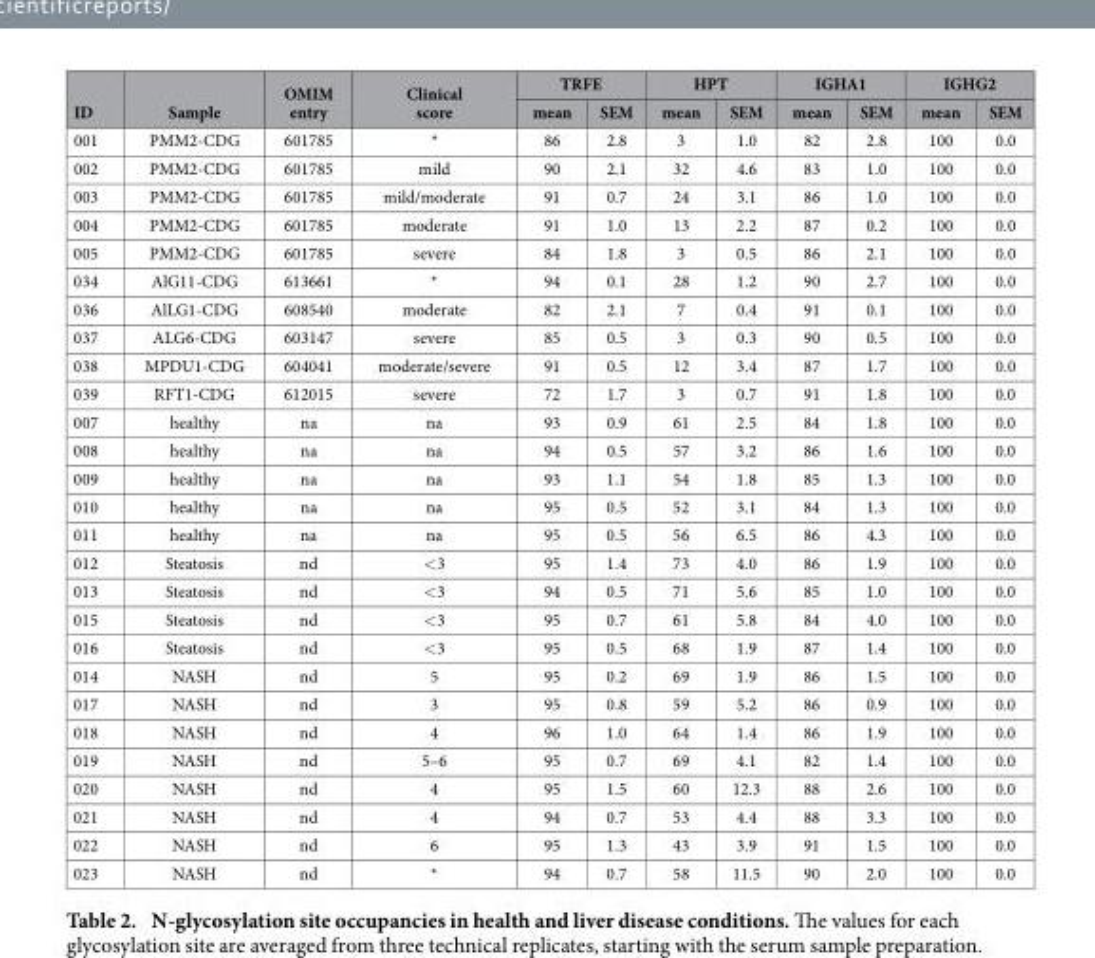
<table><thead><tr><td rowspan="2">ID</td><td rowspan="2">Sample</td><td rowspan="2">OMIM entry</td><td rowspan="2">Clinical score</td><td colspan="2">TRFE</td><td colspan="2">HPT</td><td colspan="2">IGHA1</td><td colspan="2">IGHG2</td></tr><tr><td>mean</td><td>SEM</td><td>mean</td><td>SEM</td><td>mean</td><td>SEM</td><td>mean</td><td>SEM</td></tr></thead><tbody><tr><td>001</td><td>PMM2-CDG</td><td>601785</td><td>*</td><td>86</td><td>2.8</td><td>3</td><td>1.0</td><td>82</td><td>2.8</td><td>100</td><td>0.0</td></tr><tr><td>002</td><td>PMM2-CDG</td><td>601785</td><td>mild</td><td>90</td><td>2.1</td><td>32</td><td>4.6</td><td>83</td><td>1.0</td><td>100</td><td>0.0</td></tr><tr><td>003</td><td>PMM2-CDG</td><td>601785</td><td>mild/moderate</td><td>91</td><td>0.7</td><td>24</td><td>3.1</td><td>86</td><td>1.0</td><td>100</td><td>0.0</td></tr><tr><td>004</td><td>PMM2-CDG</td><td>601785</td><td>moderate</td><td>91</td><td>1.0</td><td>13</td><td>2.2</td><td>87</td><td>0.2</td><td>100</td><td>0.0</td></tr><tr><td>005</td><td>PMM2-CDG</td><td>601785</td><td>severe</td><td>84</td><td>1.8</td><td>3</td><td>0.5</td><td>86</td><td>2.1</td><td>100</td><td>0.0</td></tr><tr><td>034</td><td>AlG11-CDG</td><td>613661</td><td>*</td><td>94</td><td>0.1</td><td>28</td><td>1.2</td><td>90</td><td>2.7</td><td>100</td><td>0.0</td></tr><tr><td>036</td><td>AlLG1-CDG</td><td>608540</td><td>moderate</td><td>82</td><td>2.1</td><td>7</td><td>0.4</td><td>91</td><td>0.1</td><td>100</td><td>0.0</td></tr><tr><td>037</td><td>ALG6-CDG</td><td>603147</td><td>severe</td><td>85</td><td>0.5</td><td>3</td><td>0.3</td><td>90</td><td>0.5</td><td>100</td><td>0.0</td></tr><tr><td>038</td><td>MPDU1-CDG</td><td>604041</td><td>moderate/severe</td><td>91</td><td>0.5</td><td>12</td><td>3.4</td><td>87</td><td>1.7</td><td>100</td><td>0.0</td></tr><tr><td>039</td><td>RFT1-CDG</td><td>612015</td><td>severe</td><td>72</td><td>1.7</td><td>3</td><td>0.7</td><td>91</td><td>1.8</td><td>100</td><td>0.0</td></tr><tr><td>007</td><td>healthy</td><td>na</td><td>na</td><td>93</td><td>0.9</td><td>61</td><td>2.5</td><td>84</td><td>1.8</td><td>100</td><td>0.0</td></tr><tr><td>008</td><td>healthy</td><td>na</td><td>na</td><td>94</td><td>0.5</td><td>57</td><td>3.2</td><td>86</td><td>1.6</td><td>100</td><td>0.0</td></tr><tr><td>009</td><td>healthy</td><td>na</td><td>na</td><td>93</td><td>1.1</td><td>54</td><td>1.8</td><td>85</td><td>1.3</td><td>100</td><td>0.0</td></tr><tr><td>010</td><td>healthy</td><td>na</td><td>na</td><td>95</td><td>0.5</td><td>52</td><td>3.1</td><td>84</td><td>1.3</td><td>100</td><td>0.0</td></tr><tr><td>011</td><td>healthy</td><td>na</td><td>na</td><td>95</td><td>0.5</td><td>56</td><td>6.5</td><td>86</td><td>4.3</td><td>100</td><td>0.0</td></tr><tr><td>012</td><td>Steatosis</td><td>nd</td><td>&lt; 3</td><td>95</td><td>1.4</td><td>73</td><td>4.0</td><td>86</td><td>1.9</td><td>100</td><td>0.0</td></tr><tr><td>013</td><td>Steatosis</td><td>nd</td><td>&lt; 3</td><td>94</td><td>0.5</td><td>71</td><td>5.6</td><td>85</td><td>1.0</td><td>100</td><td>0.0</td></tr><tr><td>015</td><td>Steatosis</td><td>nd</td><td>&lt; 3</td><td>95</td><td>0.7</td><td>61</td><td>5.8</td><td>84</td><td>4.0</td><td>100</td><td>0.0</td></tr><tr><td>016</td><td>Steatosis</td><td>nd</td><td>&lt; 3</td><td>95</td><td>0.5</td><td>68</td><td>1.9</td><td>87</td><td>1.4</td><td>100</td><td>0.0</td></tr><tr><td>014</td><td>NASH</td><td>nd</td><td>5</td><td>95</td><td>0.2</td><td>69</td><td>1.9</td><td>86</td><td>1.5</td><td>100</td><td>0.0</td></tr><tr><td>017</td><td>NASH</td><td>nd</td><td>3</td><td>95</td><td>0.8</td><td>59</td><td>5.2</td><td>86</td><td>0.9</td><td>100</td><td>0.0</td></tr><tr><td>018</td><td>NASH</td><td>nd</td><td>4</td><td>96</td><td>1.0</td><td>64</td><td>1.4</td><td>86</td><td>1.9</td><td>100</td><td>0.0</td></tr><tr><td>019</td><td>NASH</td><td>nd</td><td>5–6</td><td>95</td><td>0.7</td><td>69</td><td>4.1</td><td>82</td><td>1.4</td><td>100</td><td>0.0</td></tr><tr><td>020</td><td>NASH</td><td>nd</td><td>4</td><td>95</td><td>1.5</td><td>60</td><td>12.3</td><td>88</td><td>2.6</td><td>100</td><td>0.0</td></tr><tr><td>021</td><td>NASH</td><td>nd</td><td>4</td><td>94</td><td>0.7</td><td>53</td><td>4.4</td><td>88</td><td>3.3</td><td>100</td><td>0.0</td></tr><tr><td>022</td><td>NASH</td><td>nd</td><td>6</td><td>95</td><td>1.3</td><td>43</td><td>3.9</td><td>91</td><td>1.5</td><td>100</td><td>0.0</td></tr><tr><td>023</td><td>NASH</td><td>nd</td><td>*</td><td>94</td><td>0.7</td><td>58</td><td>11.5</td><td>90</td><td>2.0</td><td>100</td><td>0.0</td></tr></tbody></table>